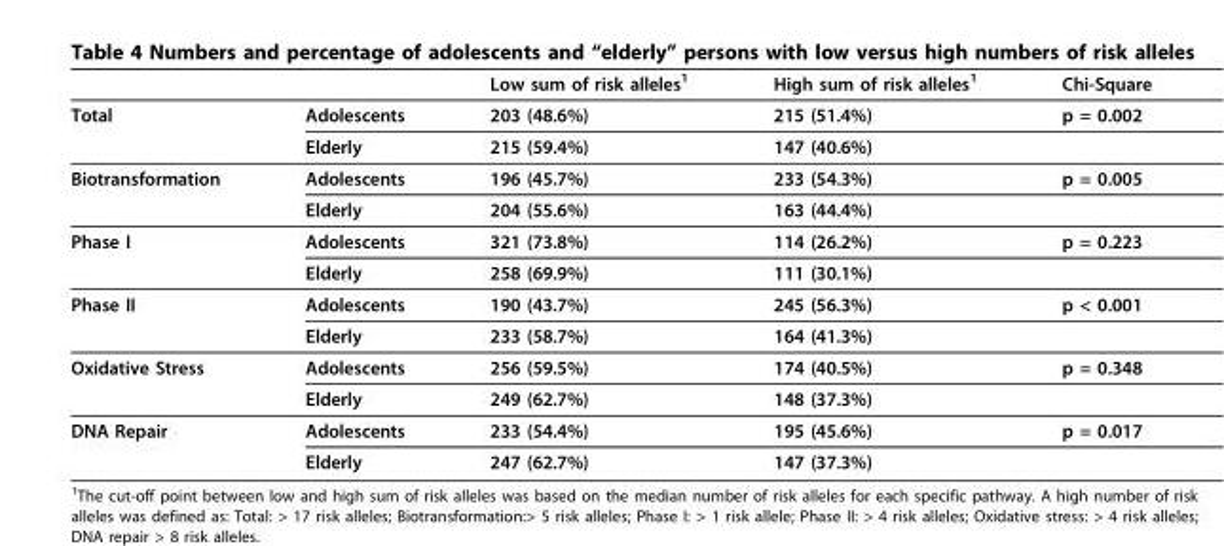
<table><thead><tr><td></td><td></td><td>Low sum of risk alleles<sup>1</sup></td><td>High sum of risk alleles<sup>1</sup></td><td>Chi-Square</td></tr></thead><tbody><tr><td rowspan="2">Total</td><td>Adolescents</td><td>203 (48.6%)</td><td>215 (51.4%)</td><td>p = 0.002</td></tr><tr><td>Elderly</td><td>215 (59.4%)</td><td>147 (40.6%)</td><td></td></tr><tr><td rowspan="2">Biotransformation</td><td>Adolescents</td><td>196 (45.7%)</td><td>233 (54.3%)</td><td>p = 0.005</td></tr><tr><td>Elderly</td><td>204 (55.6%)</td><td>163 (44.4%)</td><td></td></tr><tr><td rowspan="2">Phase I</td><td>Adolescents</td><td>321 (73.8%)</td><td>114 (26.2%)</td><td>p = 0.223</td></tr><tr><td>Elderly</td><td>258 (69.9%)</td><td>111 (30.1%)</td><td></td></tr><tr><td rowspan="2">Phase II</td><td>Adolescents</td><td>190 (43.7%)</td><td>245 (56.3%)</td><td>p &lt; 0.001</td></tr><tr><td>Elderly</td><td>233 (58.7%)</td><td>164 (41.3%)</td><td></td></tr><tr><td rowspan="2">Oxidative Stress</td><td>Adolescents</td><td>256 (59.5%)</td><td>174 (40.5%)</td><td>p = 0.348</td></tr><tr><td>Elderly</td><td>249 (62.7%)</td><td>148 (37.3%)</td><td></td></tr><tr><td rowspan="2">DNA Repair</td><td>Adolescents</td><td>233 (54.4%)</td><td>195 (45.6%)</td><td>p = 0.017</td></tr><tr><td>Elderly</td><td>247 (62.7%)</td><td>147 (37.3%)</td><td></td></tr></tbody></table>